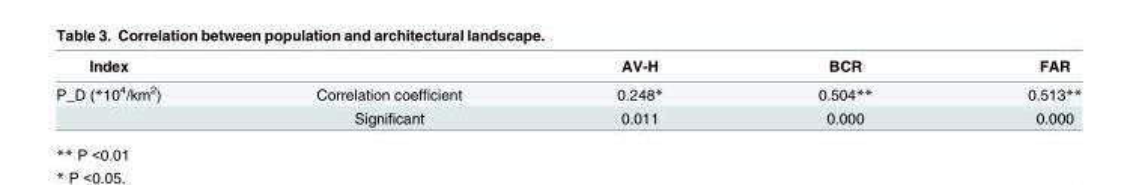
<table><thead><tr><td>Index</td><td></td><td>AV-H</td><td>BCR</td><td>FAR</td></tr></thead><tbody><tr><td rowspan="2">P_D (*10<sup>4</sup>/km<sup>2</sup>)</td><td>Correlation coefficient</td><td>0.248*</td><td>0.504**</td><td>0.513**</td></tr><tr><td>Significant</td><td>0.011</td><td>0.000</td><td>0.000</td></tr></tbody></table>